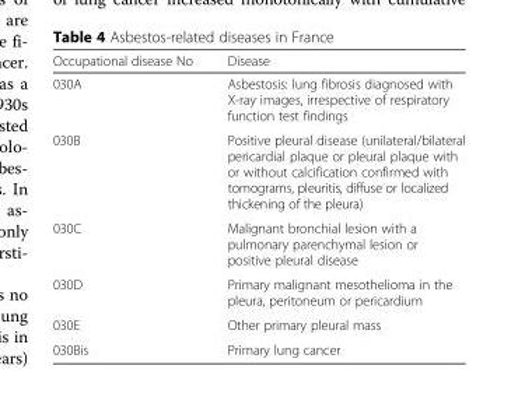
<table><thead><tr><td>Occupational disease No</td><td>Disease</td></tr></thead><tbody><tr><td>030A</td><td>Asbestosis: lung fibrosis diagnosed with X-ray images, irrespective of respiratory function test findings</td></tr><tr><td>030B</td><td>Positive pleural disease (unilateral/bilateral pericardial plaque or pleural plaque with or without calcification confirmed with tomograms, pleuritis, diffuse or localized thickening of the pleura)</td></tr><tr><td>030C</td><td>Malignant bronchial lesion with a pulmonary parenchymal lesion or positive pleural disease</td></tr><tr><td>030D</td><td>Primary malignant mesothelioma in the pleura, peritoneum or pericardium</td></tr><tr><td>030E</td><td>Other primary pleural mass</td></tr><tr><td>030Bis</td><td>Primary lung cancer</td></tr></tbody></table>